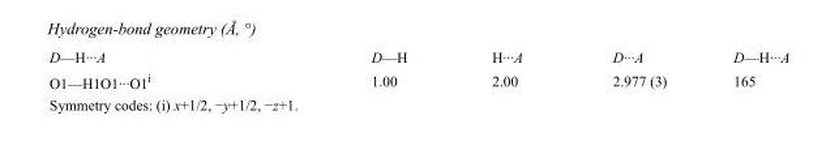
<table><tbody><tr><td>D—H···A</td><td>D—H</td><td>H···A</td><td>D···A</td><td>D—H···A</td></tr><tr><td>O1—H1O1···O1<sup>i</sup></td><td>1.00</td><td>2.00</td><td>2.977 (3)</td><td>165</td></tr></tbody></table>